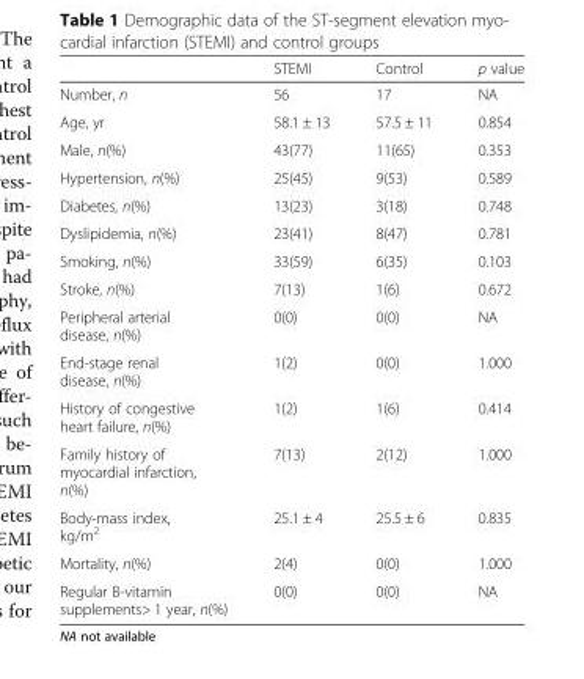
<table><thead><tr><td></td><td>STEMI</td><td>Control</td><td>p value</td></tr></thead><tbody><tr><td>Number, n</td><td>56</td><td>17</td><td>NA</td></tr><tr><td>Age, yr</td><td>58.1 ± 13</td><td>57.5 ± 11</td><td>0.854</td></tr><tr><td>Male, n(%)</td><td>43(77)</td><td>11(65)</td><td>0.353</td></tr><tr><td>Hypertension, n(%)</td><td>25(45)</td><td>9(53)</td><td>0.589</td></tr><tr><td>Diabetes, n(%)</td><td>13(23)</td><td>3(18)</td><td>0.748</td></tr><tr><td>Dyslipidemia, n(%)</td><td>23(41)</td><td>8(47)</td><td>0.781</td></tr><tr><td>Smoking, n(%)</td><td>33(59)</td><td>6(35)</td><td>0.103</td></tr><tr><td>Stroke, n(%)</td><td>7(13)</td><td>1(6)</td><td>0.672</td></tr><tr><td>Peripheral arterial disease, n(%)</td><td>0(0)</td><td>0(0)</td><td>NA</td></tr><tr><td>End-stage renal disease, n(%)</td><td>1(2)</td><td>0(0)</td><td>1.000</td></tr><tr><td>History of congestive heart failure, n(%)</td><td>1(2)</td><td>1(6)</td><td>0.414</td></tr><tr><td>Family history of myocardial infarction, n(%)</td><td>7(13)</td><td>2(12)</td><td>1.000</td></tr><tr><td>Body-mass index, kg/m<sup>2</sup></td><td>25.1 ± 4</td><td>25.5 ± 6</td><td>0.835</td></tr><tr><td>Mortality, n(%)</td><td>2(4)</td><td>0(0)</td><td>1.000</td></tr><tr><td>Regular B-vitamin supplements&gt; 1 year, n(%)</td><td>0(0)</td><td>0(0)</td><td>NA</td></tr></tbody></table>